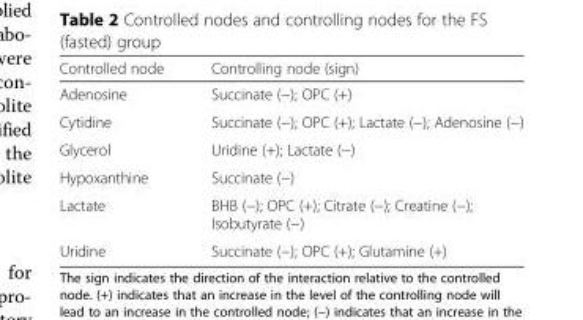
<table><thead><tr><td>Controlled node</td><td>Controlling node (sign)</td></tr></thead><tbody><tr><td>Adenosine</td><td>Succinate (−); OPC (+)</td></tr><tr><td>Cytidine</td><td>Succinate (−); OPC (+); Lactate (−); Adenosine (−)</td></tr><tr><td>Glycerol</td><td>Uridine (+); Lactate (−)</td></tr><tr><td>Hypoxanthine</td><td>Succinate (−)</td></tr><tr><td>Lactate</td><td>BHB (−); OPC (+); Citrate (−); Creatine (−); Isobutyrate (−)</td></tr><tr><td>Uridine</td><td>Succinate (−); OPC (+); Glutamine (+)</td></tr></tbody></table>